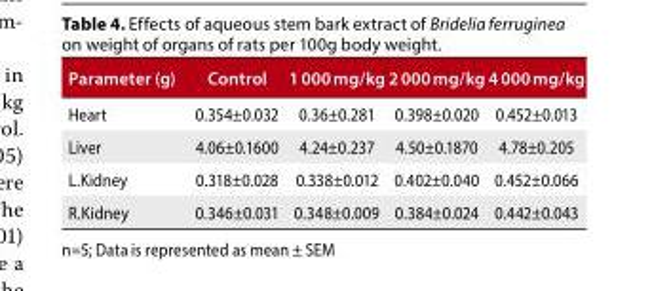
<table><thead><tr><td>Parameter (g)</td><td>Control</td><td>1 000 mg/kg</td><td>2 000 mg/kg</td><td>4 000 mg/kg</td></tr></thead><tbody><tr><td>Heart</td><td>0.354±0.032</td><td>0.36±0.281</td><td>0.398±0.020</td><td>0.452±0.013</td></tr><tr><td>Liver</td><td>4.06±0.1600</td><td>4.24±0.237</td><td>4.50±0.1870</td><td>4.78±0.205</td></tr><tr><td>L.Kidney</td><td>0.318±0.028</td><td>0.338±0.012</td><td>0.402±0.040</td><td>0.452±0.066</td></tr><tr><td>R.Kidney</td><td>0.346±0.031</td><td>0.348±0.009</td><td>0.384±0.024</td><td>0.442±0.043</td></tr></tbody></table>